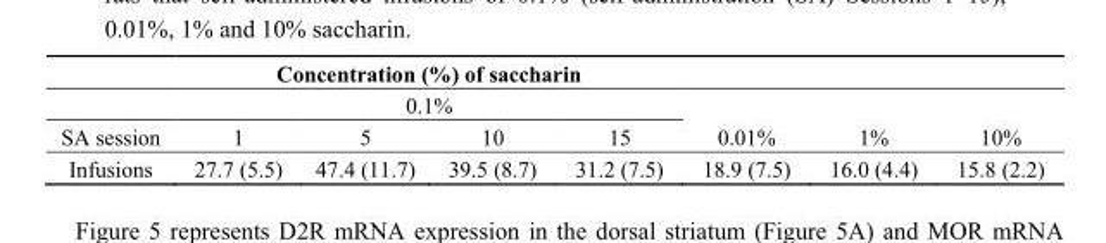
<table><thead><tr><td rowspan="3">SA session</td><td rowspan="2" colspan="4">Concentration (%) of saccharin 0.1%</td><td></td><td></td><td></td></tr><tr><td colspan="3"></td></tr><tr><td>1</td><td>5</td><td>10</td><td>15</td><td>0.01%</td><td>1%</td><td>10%</td></tr></thead><tbody><tr><td>Infusions</td><td>27.7 (5.5)</td><td>47.4 (11.7)</td><td>39.5 (8.7)</td><td>31.2 (7.5)</td><td>18.9 (7.5)</td><td>16.0 (4.4)</td><td>15.8 (2.2)</td></tr></tbody></table>